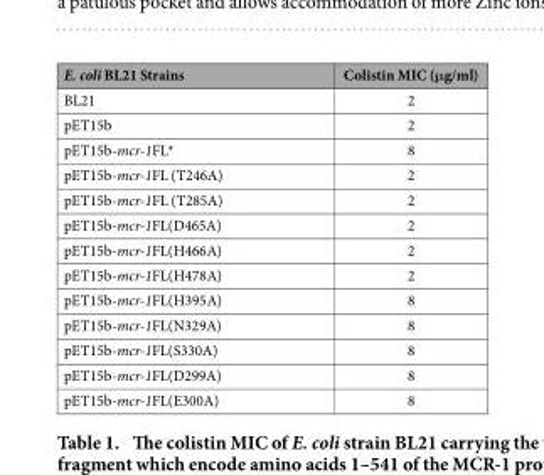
<table><thead><tr><td>E. coli BL21 Strains</td><td>Colistin MIC (μg/ml)</td></tr></thead><tbody><tr><td>BL21</td><td>2</td></tr><tr><td>pET15b</td><td>2</td></tr><tr><td>pET15b-mcr-1FL*</td><td>8</td></tr><tr><td>pET15b-mcr-1FL (T246A)</td><td>2</td></tr><tr><td>pET15b-mcr-1FL (T285A)</td><td>2</td></tr><tr><td>pET15b-mcr-1FL(D465A)</td><td>2</td></tr><tr><td>pET15b-mcr-1FL(H466A)</td><td>2</td></tr><tr><td>pET15b-mcr-1FL(H478A)</td><td>2</td></tr><tr><td>pET15b-mcr-1FL(H395A)</td><td>8</td></tr><tr><td>pET15b-mcr-1FL(N329A)</td><td>8</td></tr><tr><td>pET15b-mcr-1FL(S330A)</td><td>8</td></tr><tr><td>pET15b-mcr-1FL(D299A)</td><td>8</td></tr><tr><td>pET15b-mcr-1FL(E300A)</td><td>8</td></tr></tbody></table>